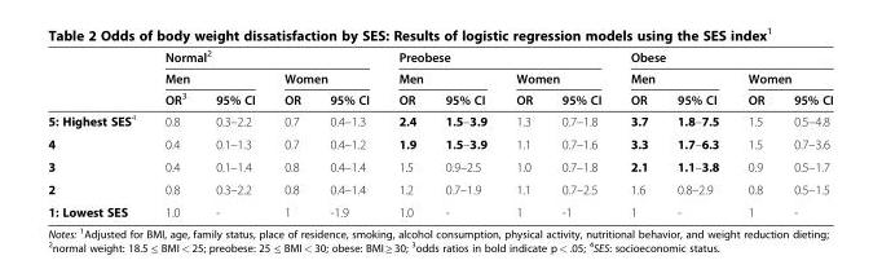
<table><thead><tr><td rowspan="3"></td><td colspan="4">Normal<sup>2</sup></td><td colspan="4">Preobese</td><td colspan="4">Obese</td></tr><tr><td colspan="2">Men</td><td colspan="2">Women</td><td colspan="2">Men</td><td colspan="2">Women</td><td colspan="2">Men</td><td colspan="2">Women</td></tr><tr><td>OR<sup>3</sup></td><td>95% CI</td><td>OR</td><td>95% CI</td><td>OR</td><td>95% CI</td><td>OR</td><td>95% CI</td><td>OR</td><td>95% CI</td><td>OR</td><td>95% CI</td></tr></thead><tbody><tr><td>5: Highest SES<sup>4</sup></td><td>0.8</td><td>0.3–2.2</td><td>0.7</td><td>0.4–1.3</td><td>2.4</td><td>1.5–3.9</td><td>1.3</td><td>0.7–1.8</td><td>3.7</td><td>1.8–7.5</td><td>1.5</td><td>0.5–4.8</td></tr><tr><td>4</td><td>0.4</td><td>0.1–1.3</td><td>0.7</td><td>0.4–1.2</td><td>1.9</td><td>1.5–3.9</td><td>1.1</td><td>0.7–1.6</td><td>3.3</td><td>1.7–6.3</td><td>1.5</td><td>0.7–3.6</td></tr><tr><td>3</td><td>0.4</td><td>0.1–1.4</td><td>0.8</td><td>0.4–1.4</td><td>1.5</td><td>0.9–2.5</td><td>1.0</td><td>0.7–1.8</td><td>2.1</td><td>1.1–3.8</td><td>0.9</td><td>0.5–1.7</td></tr><tr><td>2</td><td>0.8</td><td>0.3–2.2</td><td>0.8</td><td>0.4–1.4</td><td>1.2</td><td>0.7–1.9</td><td>1.1</td><td>0.7–2.5</td><td>1.6</td><td>0.8–2.9</td><td>0.8</td><td>0.5–1.5</td></tr><tr><td>1: Lowest SES</td><td>1.0</td><td>-</td><td>1</td><td>-1.9</td><td>1.0</td><td>-</td><td>1</td><td>-1</td><td>1</td><td>-</td><td>1</td><td>-</td></tr></tbody></table>